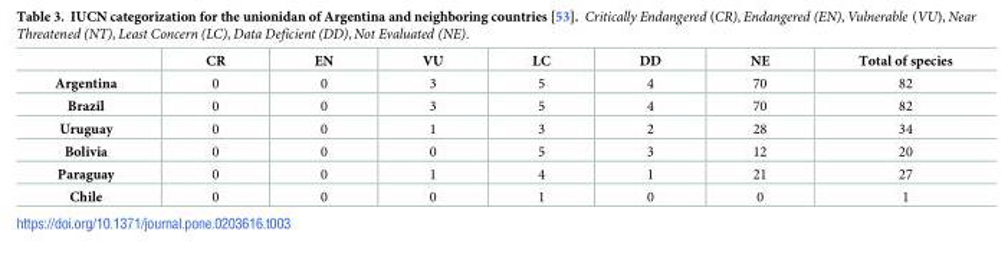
<table><thead><tr><td></td><td>CR</td><td>EN</td><td>VU</td><td>LC</td><td>DD</td><td>NE</td><td>Total of species</td></tr></thead><tbody><tr><td>Argentina</td><td>0</td><td>0</td><td>3</td><td>5</td><td>4</td><td>70</td><td>82</td></tr><tr><td>Brazil</td><td>0</td><td>0</td><td>3</td><td>5</td><td>4</td><td>70</td><td>82</td></tr><tr><td>Uruguay</td><td>0</td><td>0</td><td>1</td><td>3</td><td>2</td><td>28</td><td>34</td></tr><tr><td>Bolivia</td><td>0</td><td>0</td><td>0</td><td>5</td><td>3</td><td>12</td><td>20</td></tr><tr><td>Paraguay</td><td>0</td><td>0</td><td>1</td><td>4</td><td>1</td><td>21</td><td>27</td></tr><tr><td>Chile</td><td>0</td><td>0</td><td>0</td><td>1</td><td>0</td><td>0</td><td>1</td></tr></tbody></table>